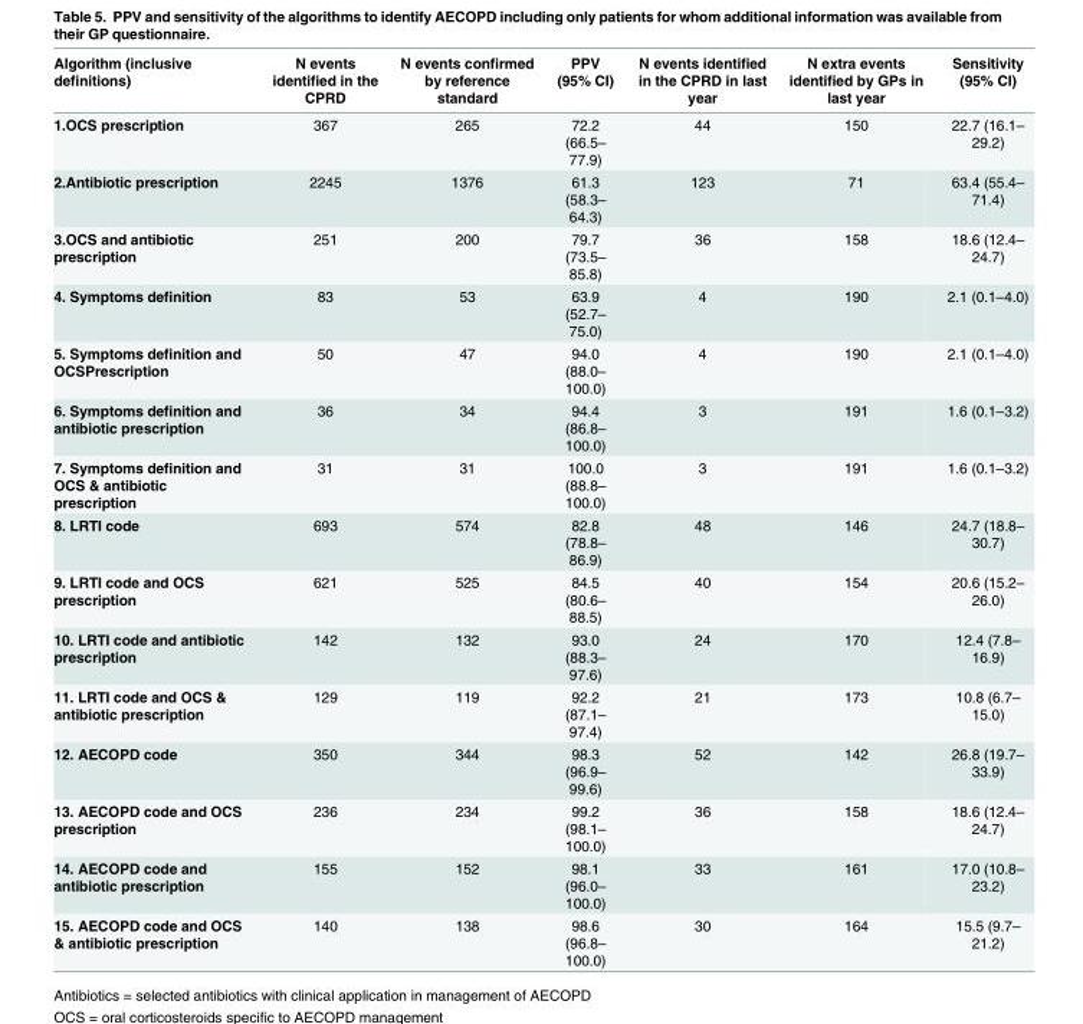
<table><thead><tr><td>Algorithm (inclusive definitions)</td><td>N events identified in the CPRD</td><td>N events confirmed by reference standard</td><td>PPV (95% CI)</td><td>N events identified in the CPRD in last year</td><td>N extra events identified by GPs in last year</td><td>Sensitivity (95% CI)</td></tr></thead><tbody><tr><td>1.OCS prescription</td><td>367</td><td>265</td><td>72.2 (66.5– 77.9)</td><td>44</td><td>150</td><td>22.7 (16.1– 29.2)</td></tr><tr><td>2.Antibiotic prescription</td><td>2245</td><td>1376</td><td>61.3 (58.3– 64.3)</td><td>123</td><td>71</td><td>63.4 (55.4– 71.4)</td></tr><tr><td>3.OCS and antibiotic prescription</td><td>251</td><td>200</td><td>79.7 (73.5– 85.8)</td><td>36</td><td>158</td><td>18.6 (12.4– 24.7)</td></tr><tr><td>4. Symptoms definition</td><td>83</td><td>53</td><td>63.9 (52.7– 75.0)</td><td>4</td><td>190</td><td>2.1 (0.1–4.0)</td></tr><tr><td>5. Symptoms definition and OCSPrescription</td><td>50</td><td>47</td><td>94.0 (88.0– 100.0)</td><td>4</td><td>190</td><td>2.1 (0.1–4.0)</td></tr><tr><td>6. Symptoms definition and antibiotic prescription</td><td>36</td><td>34</td><td>94.4 (86.8– 100.0)</td><td>3</td><td>191</td><td>1.6 (0.1–3.2)</td></tr><tr><td>7. Symptoms definition and OCS &amp; antibiotic prescription</td><td>31</td><td>31</td><td>100.0 (88.8– 100.0)</td><td>3</td><td>191</td><td>1.6 (0.1–3.2)</td></tr><tr><td>8. LRTI code</td><td>693</td><td>574</td><td>82.8 (78.8– 86.9)</td><td>48</td><td>146</td><td>24.7 (18.8– 30.7)</td></tr><tr><td>9. LRTI code and OCS prescription</td><td>621</td><td>525</td><td>84.5 (80.6– 88.5)</td><td>40</td><td>154</td><td>20.6 (15.2– 26.0)</td></tr><tr><td>10. LRTI code and antibiotic prescription</td><td>142</td><td>132</td><td>93.0 (88.3– 97.6)</td><td>24</td><td>170</td><td>12.4 (7.8– 16.9)</td></tr><tr><td>11. LRTI code and OCS &amp; antibiotic prescription</td><td>129</td><td>119</td><td>92.2 (87.1– 97.4)</td><td>21</td><td>173</td><td>10.8 (6.7– 15.0)</td></tr><tr><td>12. AECOPD code</td><td>350</td><td>344</td><td>98.3 (96.9– 99.6)</td><td>52</td><td>142</td><td>26.8 (19.7– 33.9)</td></tr><tr><td>13. AECOPD code and OCS prescription</td><td>236</td><td>234</td><td>99.2 (98.1– 100.0)</td><td>36</td><td>158</td><td>18.6 (12.4– 24.7)</td></tr><tr><td>14. AECOPD code and antibiotic prescription</td><td>155</td><td>152</td><td>98.1 (96.0– 100.0)</td><td>33</td><td>161</td><td>17.0 (10.8– 23.2)</td></tr><tr><td>15. AECOPD code and OCS &amp; antibiotic prescription</td><td>140</td><td>138</td><td>98.6 (96.8– 100.0)</td><td>30</td><td>164</td><td>15.5 (9.7– 21.2)</td></tr></tbody></table>